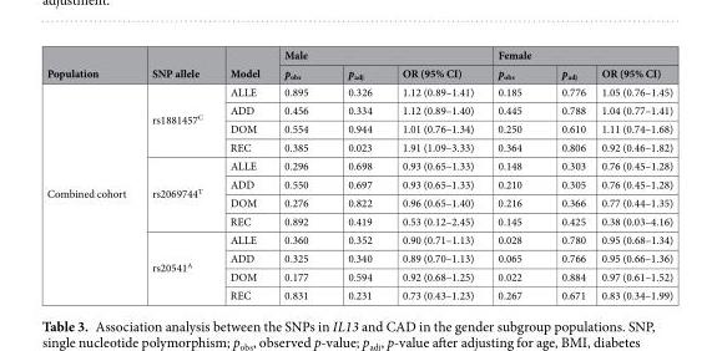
<table><thead><tr><td rowspan="2">Population</td><td rowspan="2">SNP allele</td><td rowspan="2">Model</td><td colspan="3">Male</td><td colspan="3">Female</td></tr><tr><td>p<sub>obs</sub></td><td>p<sub>adj</sub></td><td>OR (95% CI)</td><td>p<sub>obs</sub></td><td>p<sub>adj</sub></td><td>OR (95% CI)</td></tr></thead><tbody><tr><td rowspan="12">Combined cohort</td><td rowspan="4">rs1881457<sup>C</sup></td><td>ALLE</td><td>0.895</td><td>0.326</td><td>1.12 (0.89–1.41)</td><td>0.185</td><td>0.776</td><td>1.05 (0.76–1.45)</td></tr><tr><td>ADD</td><td>0.456</td><td>0.334</td><td>1.12 (0.89–1.40)</td><td>0.445</td><td>0.788</td><td>1.04 (0.77–1.41)</td></tr><tr><td>DOM</td><td>0.554</td><td>0.944</td><td>1.01 (0.76–1.34)</td><td>0.250</td><td>0.610</td><td>1.11 (0.74–1.68)</td></tr><tr><td>REC</td><td>0.385</td><td>0.023</td><td>1.91 (1.09–3.33)</td><td>0.364</td><td>0.806</td><td>0.92 (0.46–1.82)</td></tr><tr><td rowspan="4">rs2069744<sup>T</sup></td><td>ALLE</td><td>0.296</td><td>0.698</td><td>0.93 (0.65–1.33)</td><td>0.148</td><td>0.303</td><td>0.76 (0.45–1.28)</td></tr><tr><td>ADD</td><td>0.550</td><td>0.697</td><td>0.93 (0.65–1.33)</td><td>0.210</td><td>0.305</td><td>0.76 (0.45–1.28)</td></tr><tr><td>DOM</td><td>0.276</td><td>0.822</td><td>0.96 (0.65–1.40)</td><td>0.216</td><td>0.366</td><td>0.77 (0.44–1.35)</td></tr><tr><td>REC</td><td>0.892</td><td>0.419</td><td>0.53 (0.12–2.45)</td><td>0.145</td><td>0.425</td><td>0.38 (0.03–4.16)</td></tr><tr><td rowspan="4">rs20541<sup>A</sup></td><td>ALLE</td><td>0.360</td><td>0.352</td><td>0.90 (0.71–1.13)</td><td>0.028</td><td>0.780</td><td>0.95 (0.68–1.34)</td></tr><tr><td>ADD</td><td>0.325</td><td>0.340</td><td>0.89 (0.70–1.13)</td><td>0.065</td><td>0.766</td><td>0.95 (0.66–1.36)</td></tr><tr><td>DOM</td><td>0.177</td><td>0.594</td><td>0.92 (0.68–1.25)</td><td>0.022</td><td>0.884</td><td>0.97 (0.61–1.52)</td></tr><tr><td>REC</td><td>0.831</td><td>0.231</td><td>0.73 (0.43–1.23)</td><td>0.267</td><td>0.671</td><td>0.83 (0.34–1.99)</td></tr></tbody></table>